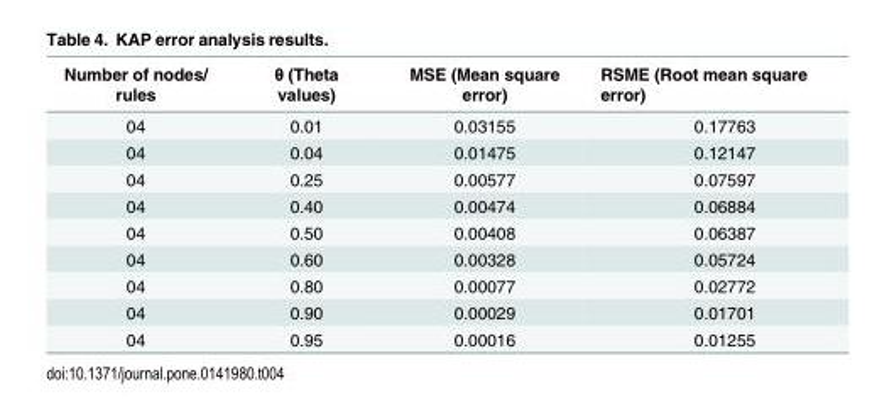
<table><thead><tr><td>Number of nodes/ rules</td><td>θ (Theta values)</td><td>MSE (Mean square error)</td><td>RSME (Root mean square error)</td></tr></thead><tbody><tr><td>04</td><td>0.01</td><td>0.03155</td><td>0.17763</td></tr><tr><td>04</td><td>0.04</td><td>0.01475</td><td>0.12147</td></tr><tr><td>04</td><td>0.25</td><td>0.00577</td><td>0.07597</td></tr><tr><td>04</td><td>0.40</td><td>0.00474</td><td>0.06884</td></tr><tr><td>04</td><td>0.50</td><td>0.00408</td><td>0.06387</td></tr><tr><td>04</td><td>0.60</td><td>0.00328</td><td>0.05724</td></tr><tr><td>04</td><td>0.80</td><td>0.00077</td><td>0.02772</td></tr><tr><td>04</td><td>0.90</td><td>0.00029</td><td>0.01701</td></tr><tr><td>04</td><td>0.95</td><td>0.00016</td><td>0.01255</td></tr></tbody></table>